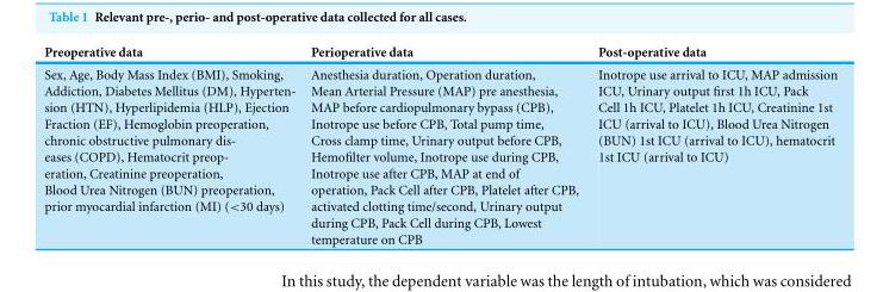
<table><thead><tr><td>Preoperative data</td><td>Perioperative data</td><td>Post-operative data</td></tr></thead><tbody><tr><td>Sex, Age, Body Mass Index (BMI), Smoking, Addiction, Diabetes Mellitus (DM), Hyperten- sion (HTN), Hyperlipidemia (HLP), Ejection Fraction (EF), Hemoglobin preoperation, chronic obstructive pulmonary dis- eases (COPD), Hematocrit preop- eration, Creatinine preoperation, Blood Urea Nitrogen (BUN) preoperation, prior myocardial infarction (MI) (&lt;30 days)</td><td>Anesthesia duration, Operation duration, Mean Arterial Pressure (MAP) pre anesthesia, MAP before cardiopulmonary bypass (CPB), Inotrope use before CPB, Total pump time, Cross clamp time, Urinary output before CPB, Hemofilter volume, Inotrope use during CPB, Inotrope use after CPB, MAP at end of operation, Pack Cell after CPB, Platelet after CPB, activated clotting time/second, Urinary output during CPB, Pack Cell during CPB, Lowest temperature on CPB</td><td>Inotrope use arrival to ICU, MAP admission ICU, Urinary output first 1h ICU, Pack Cell 1h ICU, Platelet 1h ICU, Creatinine 1st ICU (arrival to ICU), Blood Urea Nitrogen (BUN) 1st ICU (arrival to ICU), hematocrit 1st ICU (arrival to ICU)</td></tr></tbody></table>